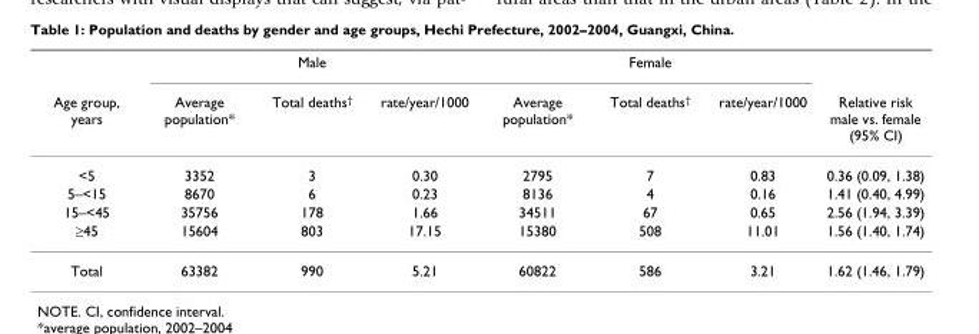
<table><thead><tr><td rowspan="2">Age group, years</td><td colspan="3">Male</td><td colspan="3">Female</td><td rowspan="2">Relative risk male vs. female (95% CI)</td></tr><tr><td>Average population*</td><td>Total deaths<sup>†</sup></td><td>rate/year/1000</td><td>Average population*</td><td>Total deaths<sup>†</sup></td><td>rate/year/1000</td></tr></thead><tbody><tr><td>&lt;5</td><td>3352</td><td>3</td><td>0.30</td><td>2795</td><td>7</td><td>0.83</td><td>0.36 (0.09, 1.38)</td></tr><tr><td>5–&lt;15</td><td>8670</td><td>6</td><td>0.23</td><td>8136</td><td>4</td><td>0.16</td><td>1.41 (0.40, 4.99)</td></tr><tr><td>15–&lt;45</td><td>35756</td><td>178</td><td>1.66</td><td>34511</td><td>67</td><td>0.65</td><td>2.56 (1.94, 3.39)</td></tr><tr><td>≥45</td><td>15604</td><td>803</td><td>17.15</td><td>15380</td><td>508</td><td>11.01</td><td>1.56 (1.40, 1.74)</td></tr><tr><td>Total</td><td>63382</td><td>990</td><td>5.21</td><td>60822</td><td>586</td><td>3.21</td><td>1.62 (1.46, 1.79)</td></tr></tbody></table>